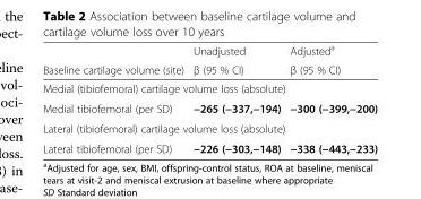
<table><thead><tr><td rowspan="2">Baseline cartilage volume (site)</td><td rowspan="2">Unadjusted β (95 % CI)</td><td rowspan="2">Adjusted<sup>a</sup> β (95 % CI)</td></tr><tr></tr></thead><tbody><tr><td colspan="3">Medial (tibiofemoral) cartilage volume loss (absolute)</td></tr><tr><td>Medial tibiofemoral (per SD)</td><td>−265 (−337,−194)</td><td>−300 (−399,−200)</td></tr><tr><td colspan="3">Lateral (tibiofemoral) cartilage volume loss (absolute)</td></tr><tr><td>Lateral tibiofemoral (per SD)</td><td>−226 (−303,−148)</td><td>−338 (−443,−233)</td></tr></tbody></table>